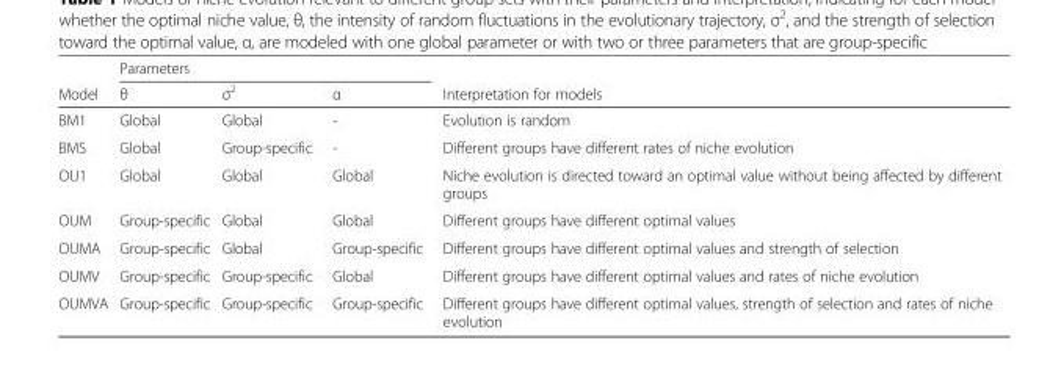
<table><thead><tr><td rowspan="2">Model</td><td colspan="3">Parameters</td><td rowspan="2">Interpretation for models</td></tr><tr><td>θ</td><td>σ<sup>2</sup></td><td>α</td></tr></thead><tbody><tr><td>BM1</td><td>Global</td><td>Global</td><td>-</td><td>Evolution is random</td></tr><tr><td>BMS</td><td>Global</td><td>Group-specific</td><td>-</td><td>Different groups have different rates of niche evolution</td></tr><tr><td>OU1</td><td>Global</td><td>Global</td><td>Global</td><td>Niche evolution is directed toward an optimal value without being affected by different groups</td></tr><tr><td>OUM</td><td>Group-specific</td><td>Global</td><td>Global</td><td>Different groups have different optimal values</td></tr><tr><td>OUMA</td><td>Group-specific</td><td>Global</td><td>Group-specific</td><td>Different groups have different optimal values and strength of selection</td></tr><tr><td>OUMV</td><td>Group-specific</td><td>Group-specific</td><td>Global</td><td>Different groups have different optimal values and rates of niche evolution</td></tr><tr><td>OUMVA</td><td>Group-specific</td><td>Group-specific</td><td>Group-specific</td><td>Different groups have different optimal values, strength of selection and rates of niche evolution</td></tr></tbody></table>